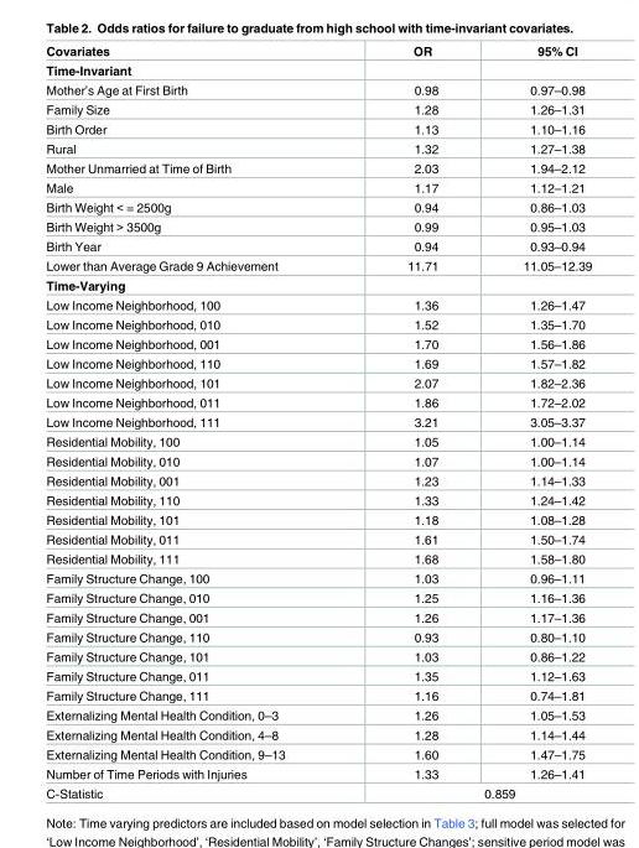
<table><thead><tr><td>Covariates</td><td>OR</td><td>95% CI</td></tr></thead><tbody><tr><td colspan="3">Time-Invariant</td></tr><tr><td>Mother’s Age at First Birth</td><td>0.98</td><td>0.97–0.98</td></tr><tr><td>Family Size</td><td>1.28</td><td>1.26–1.31</td></tr><tr><td>Birth Order</td><td>1.13</td><td>1.10–1.16</td></tr><tr><td>Rural</td><td>1.32</td><td>1.27–1.38</td></tr><tr><td>Mother Unmarried at Time of Birth</td><td>2.03</td><td>1.94–2.12</td></tr><tr><td>Male</td><td>1.17</td><td>1.12–1.21</td></tr><tr><td>Birth Weight &lt; = 2500g</td><td>0.94</td><td>0.86–1.03</td></tr><tr><td>Birth Weight &gt; 3500g</td><td>0.99</td><td>0.95–1.03</td></tr><tr><td>Birth Year</td><td>0.94</td><td>0.93–0.94</td></tr><tr><td>Lower than Average Grade 9 Achievement</td><td>11.71</td><td>11.05–12.39</td></tr><tr><td colspan="3">Time-Varying</td></tr><tr><td>Low Income Neighborhood, 100</td><td>1.36</td><td>1.26–1.47</td></tr><tr><td>Low Income Neighborhood, 010</td><td>1.52</td><td>1.35–1.70</td></tr><tr><td>Low Income Neighborhood, 001</td><td>1.70</td><td>1.56–1.86</td></tr><tr><td>Low Income Neighborhood, 110</td><td>1.69</td><td>1.57–1.82</td></tr><tr><td>Low Income Neighborhood, 101</td><td>2.07</td><td>1.82–2.36</td></tr><tr><td>Low Income Neighborhood, 011</td><td>1.86</td><td>1.72–2.02</td></tr><tr><td>Low Income Neighborhood, 111</td><td>3.21</td><td>3.05–3.37</td></tr><tr><td>Residential Mobility, 100</td><td>1.05</td><td>1.00–1.14</td></tr><tr><td>Residential Mobility, 010</td><td>1.07</td><td>1.00–1.14</td></tr><tr><td>Residential Mobility, 001</td><td>1.23</td><td>1.14–1.33</td></tr><tr><td>Residential Mobility, 110</td><td>1.33</td><td>1.24–1.42</td></tr><tr><td>Residential Mobility, 101</td><td>1.18</td><td>1.08–1.28</td></tr><tr><td>Residential Mobility, 011</td><td>1.61</td><td>1.50–1.74</td></tr><tr><td>Residential Mobility, 111</td><td>1.68</td><td>1.58–1.80</td></tr><tr><td>Family Structure Change, 100</td><td>1.03</td><td>0.96–1.11</td></tr><tr><td>Family Structure Change, 010</td><td>1.25</td><td>1.16–1.36</td></tr><tr><td>Family Structure Change, 001</td><td>1.26</td><td>1.17–1.36</td></tr><tr><td>Family Structure Change, 110</td><td>0.93</td><td>0.80–1.10</td></tr><tr><td>Family Structure Change, 101</td><td>1.03</td><td>0.86–1.22</td></tr><tr><td>Family Structure Change, 011</td><td>1.35</td><td>1.12–1.63</td></tr><tr><td>Family Structure Change, 111</td><td>1.16</td><td>0.74–1.81</td></tr><tr><td>Externalizing Mental Health Condition, 0–3</td><td>1.26</td><td>1.05–1.53</td></tr><tr><td>Externalizing Mental Health Condition, 4–8</td><td>1.28</td><td>1.14–1.44</td></tr><tr><td>Externalizing Mental Health Condition, 9–13</td><td>1.60</td><td>1.47–1.75</td></tr><tr><td>Number of Time Periods with Injuries</td><td>1.33</td><td>1.26–1.41</td></tr><tr><td>C-Statistic</td><td colspan="2">0.859</td></tr></tbody></table>